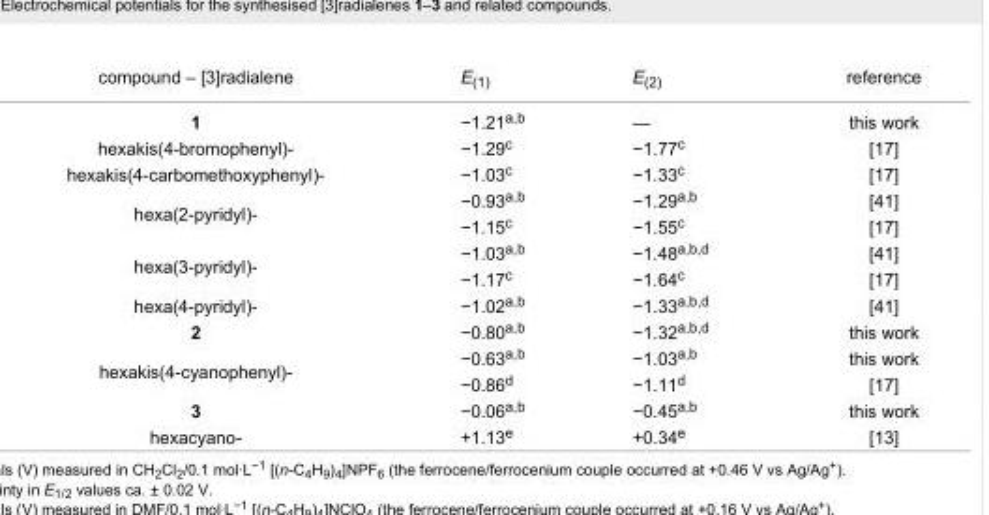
<table><tbody><tr><td>compound – [3]radialene</td><td>E<sub>(1)</sub></td><td>E<sub>(2)</sub></td><td>reference</td></tr><tr><td>1</td><td>−1.21<sup>a,b</sup></td><td>—</td><td>this work</td></tr><tr><td>hexakis(4-bromophenyl)-</td><td>−1.29<sup>c</sup></td><td>−1.77<sup>c</sup></td><td>[17]</td></tr><tr><td>hexakis(4-carbomethoxyphenyl)-</td><td>−1.03<sup>c</sup></td><td>−1.33<sup>c</sup></td><td>[17]</td></tr><tr><td rowspan="2">hexa(2-pyridyl)-</td><td>−0.93<sup>a,b</sup></td><td>−1.29<sup>a,b</sup></td><td>[41]</td></tr><tr><td>−1.15<sup>c</sup></td><td>−1.55<sup>c</sup></td><td>[17]</td></tr><tr><td rowspan="2">hexa(3-pyridyl)-</td><td>−1.03<sup>a,b</sup></td><td>−1.48<sup>a,b,d</sup></td><td>[41]</td></tr><tr><td>−1.17<sup>c</sup></td><td>−1.64<sup>c</sup></td><td>[17]</td></tr><tr><td>hexa(4-pyridyl)-</td><td>−1.02<sup>a,b</sup></td><td>−1.33<sup>a,b,d</sup></td><td>[41]</td></tr><tr><td>2</td><td>−0.80<sup>a,b</sup></td><td>−1.32<sup>a,b,d</sup></td><td>this work</td></tr><tr><td rowspan="2">hexakis(4-cyanophenyl)-</td><td>−0.63<sup>a,b</sup></td><td>−1.03<sup>a,b</sup></td><td>this work</td></tr><tr><td>−0.86<sup>d</sup></td><td>−1.11<sup>d</sup></td><td>[17]</td></tr><tr><td>3</td><td>−0.06<sup>a,b</sup></td><td>−0.45<sup>a,b</sup></td><td>this work</td></tr><tr><td>hexacyano-</td><td>+1.13<sup>e</sup></td><td>+0.34<sup>e</sup></td><td>[13]</td></tr></tbody></table>